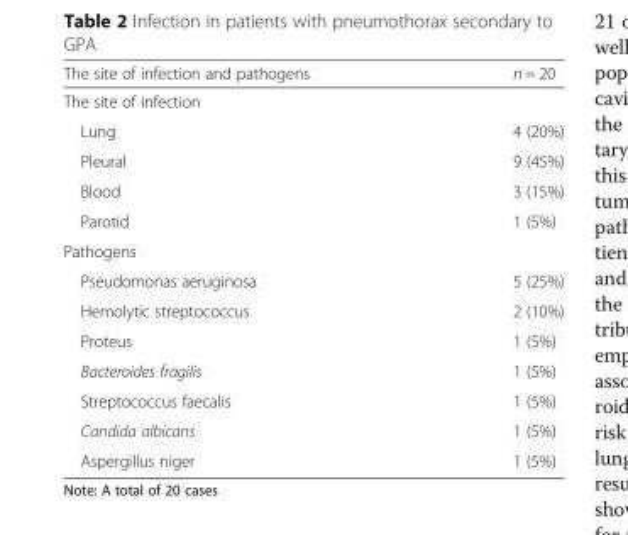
<table><thead><tr><td>The site of infection and pathogens</td><td>n = 20</td></tr></thead><tbody><tr><td colspan="2">The site of infection</td></tr><tr><td>Lung</td><td>4 (20%)</td></tr><tr><td>Pleural</td><td>9 (45%)</td></tr><tr><td>Blood</td><td>3 (15%)</td></tr><tr><td>Parotid</td><td>1 (5%)</td></tr><tr><td colspan="2">Pathogens</td></tr><tr><td>Pseudomonas aeruginosa</td><td>5 (25%)</td></tr><tr><td>Hemolytic streptococcus</td><td>2 (10%)</td></tr><tr><td>Proteus</td><td>1 (5%)</td></tr><tr><td>Bacteroides fragilis</td><td>1 (5%)</td></tr><tr><td>Streptococcus faecalis</td><td>1 (5%)</td></tr><tr><td>Candida albicans</td><td>1 (5%)</td></tr><tr><td>Aspergillus niger</td><td>1 (5%)</td></tr></tbody></table>